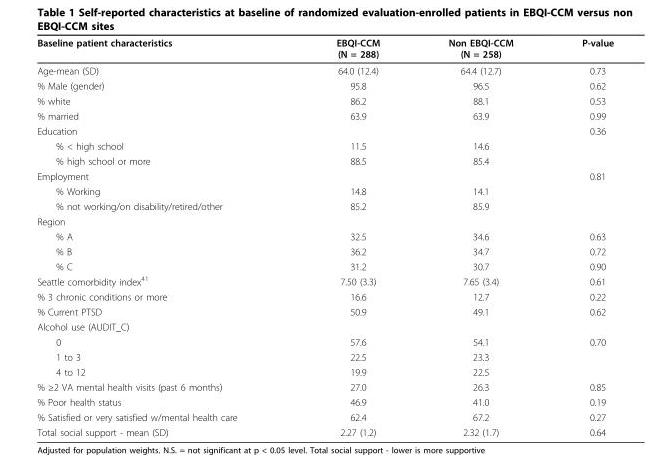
<table><thead><tr><td>Baseline patient characteristics</td><td>EBQI-CCM (N = 288)</td><td>Non EBQI-CCM (N = 258)</td><td>P-value</td></tr></thead><tbody><tr><td>Age-mean (SD)</td><td>64.0 (12.4)</td><td>64.4 (12.7)</td><td>0.73</td></tr><tr><td>% Male (gender)</td><td>95.8</td><td>96.5</td><td>0.62</td></tr><tr><td>% white</td><td>86.2</td><td>88.1</td><td>0.53</td></tr><tr><td>% married</td><td>63.9</td><td>63.9</td><td>0.99</td></tr><tr><td>Education</td><td></td><td></td><td>0.36</td></tr><tr><td>% &lt; high school</td><td>11.5</td><td>14.6</td><td></td></tr><tr><td>% high school or more</td><td>88.5</td><td>85.4</td><td></td></tr><tr><td>Employment</td><td></td><td></td><td>0.81</td></tr><tr><td>% Working</td><td>14.8</td><td>14.1</td><td></td></tr><tr><td>% not working/on disability/retired/other</td><td>85.2</td><td>85.9</td><td></td></tr><tr><td colspan="4">Region</td></tr><tr><td>% A</td><td>32.5</td><td>34.6</td><td>0.63</td></tr><tr><td>% B</td><td>36.2</td><td>34.7</td><td>0.72</td></tr><tr><td>% C</td><td>31.2</td><td>30.7</td><td>0.90</td></tr><tr><td>Seattle comorbidity index<sup>41</sup></td><td>7.50 (3.3)</td><td>7.65 (3.4)</td><td>0.61</td></tr><tr><td>% 3 chronic conditions or more</td><td>16.6</td><td>12.7</td><td>0.22</td></tr><tr><td>% Current PTSD</td><td>50.9</td><td>49.1</td><td>0.62</td></tr><tr><td colspan="4">Alcohol use (AUDIT_C)</td></tr><tr><td>0</td><td>57.6</td><td>54.1</td><td>0.70</td></tr><tr><td>1 to 3</td><td>22.5</td><td>23.3</td><td></td></tr><tr><td>4 to 12</td><td>19.9</td><td>22.5</td><td></td></tr><tr><td>% ≥2 VA mental health visits (past 6 months)</td><td>27.0</td><td>26.3</td><td>0.85</td></tr><tr><td>% Poor health status</td><td>46.9</td><td>41.0</td><td>0.19</td></tr><tr><td>% Satisfied or very satisfied w/mental health care</td><td>62.4</td><td>67.2</td><td>0.27</td></tr><tr><td>Total social support - mean (SD)</td><td>2.27 (1.2)</td><td>2.32 (1.7)</td><td>0.64</td></tr></tbody></table>